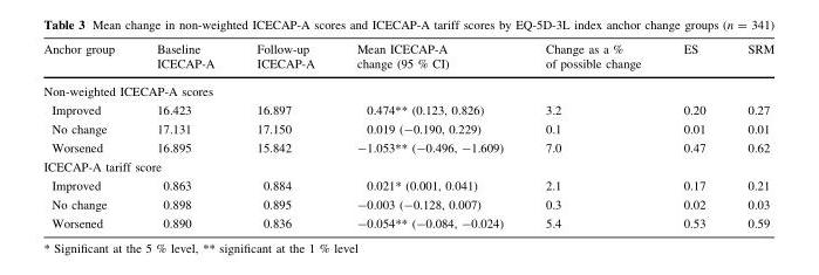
<table><thead><tr><td>Anchor group</td><td>Baseline ICECAP-A</td><td>Follow-up ICECAP-A</td><td>Mean ICECAP-A change (95 % CI)</td><td>Change as a % of possible change</td><td>ES</td><td>SRM</td></tr></thead><tbody><tr><td colspan="7">Non-weighted ICECAP-A scores</td></tr><tr><td>Improved</td><td>16.423</td><td>16.897</td><td>0.474** (0.123, 0.826)</td><td>3.2</td><td>0.20</td><td>0.27</td></tr><tr><td>No change</td><td>17.131</td><td>17.150</td><td>0.019 (-0.190, 0.229)</td><td>0.1</td><td>0.01</td><td>0.01</td></tr><tr><td>Worsened</td><td>16.895</td><td>15.842</td><td>-1.053** (-0.496, -1.609)</td><td>7.0</td><td>0.47</td><td>0.62</td></tr><tr><td colspan="7">ICECAP-A tariff score</td></tr><tr><td>Improved</td><td>0.863</td><td>0.884</td><td>0.021* (0.001, 0.041)</td><td>2.1</td><td>0.17</td><td>0.21</td></tr><tr><td>No change</td><td>0.898</td><td>0.895</td><td>-0.003 (-0.128, 0.007)</td><td>0.3</td><td>0.02</td><td>0.03</td></tr><tr><td>Worsened</td><td>0.890</td><td>0.836</td><td>-0.054** (-0.084, -0.024)</td><td>5.4</td><td>0.53</td><td>0.59</td></tr></tbody></table>